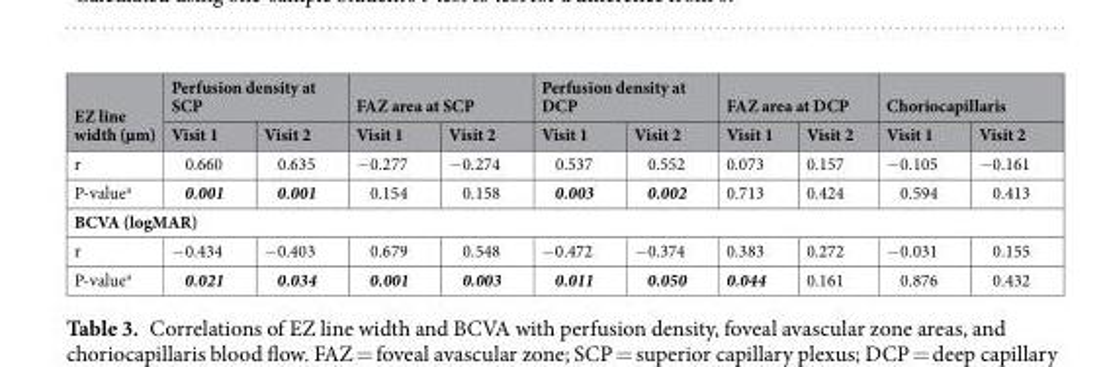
<table><thead><tr><td rowspan="2">EZ line width (µm)</td><td colspan="2">Perfusion density at SCP</td><td colspan="2">FAZ area at SCP</td><td colspan="2">Perfusion density at DCP</td><td colspan="2">FAZ area at DCP</td><td colspan="2">Choriocapillaris</td></tr><tr><td>Visit 1</td><td>Visit 2</td><td>Visit 1</td><td>Visit 2</td><td>Visit 1</td><td>Visit 2</td><td>Visit 1</td><td>Visit 2</td><td>Visit 1</td><td>Visit 2</td></tr></thead><tbody><tr><td>r</td><td>0.660</td><td>0.635</td><td>−0.277</td><td>−0.274</td><td>0.537</td><td>0.552</td><td>0.073</td><td>0.157</td><td>−0.105</td><td>−0.161</td></tr><tr><td>P-value<sup>a</sup></td><td>0.001</td><td>0.001</td><td>0.154</td><td>0.158</td><td>0.003</td><td>0.002</td><td>0.713</td><td>0.424</td><td>0.594</td><td>0.413</td></tr><tr><td colspan="11">BCVA (logMAR)</td></tr><tr><td>r</td><td>−0.434</td><td>−0.403</td><td>0.679</td><td>0.548</td><td>−0.472</td><td>−0.374</td><td>0.383</td><td>0.272</td><td>−0.031</td><td>0.155</td></tr><tr><td>P-value<sup>a</sup></td><td>0.021</td><td>0.034</td><td>0.001</td><td>0.003</td><td>0.011</td><td>0.050</td><td>0.044</td><td>0.161</td><td>0.876</td><td>0.432</td></tr></tbody></table>